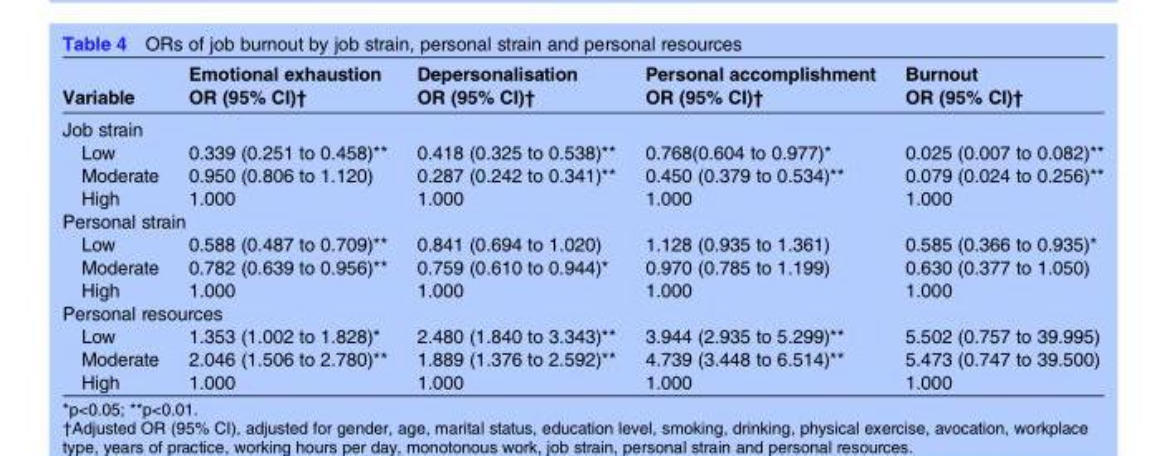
<table><thead><tr><td>Variable</td><td>Emotional exhaustion OR (95% CI)†</td><td>Depersonalisation OR (95% CI)†</td><td>Personal accomplishment OR (95% CI)†</td><td>Burnout OR (95% CI)†</td></tr></thead><tbody><tr><td colspan="5">Job strain</td></tr><tr><td>Low</td><td>0.339 (0.251 to 0.458)**</td><td>0.418 (0.325 to 0.538)**</td><td>0.768(0.604 to 0.977)*</td><td>0.025 (0.007 to 0.082)**</td></tr><tr><td>Moderate</td><td>0.950 (0.806 to 1.120)</td><td>0.287 (0.242 to 0.341)**</td><td>0.450 (0.379 to 0.534)**</td><td>0.079 (0.024 to 0.256)**</td></tr><tr><td>High</td><td>1.000</td><td>1.000</td><td>1.000</td><td>1.000</td></tr><tr><td colspan="5">Personal strain</td></tr><tr><td>Low</td><td>0.588 (0.487 to 0.709)**</td><td>0.841 (0.694 to 1.020)</td><td>1.128 (0.935 to 1.361)</td><td>0.585 (0.366 to 0.935)*</td></tr><tr><td>Moderate</td><td>0.782 (0.639 to 0.956)**</td><td>0.759 (0.610 to 0.944)*</td><td>0.970 (0.785 to 1.199)</td><td>0.630 (0.377 to 1.050)</td></tr><tr><td>High</td><td>1.000</td><td>1.000</td><td>1.000</td><td>1.000</td></tr><tr><td colspan="5">Personal resources</td></tr><tr><td>Low</td><td>1.353 (1.002 to 1.828)*</td><td>2.480 (1.840 to 3.343)**</td><td>3.944 (2.935 to 5.299)**</td><td>5.502 (0.757 to 39.995)</td></tr><tr><td>Moderate</td><td>2.046 (1.506 to 2.780)**</td><td>1.889 (1.376 to 2.592)**</td><td>4.739 (3.448 to 6.514)**</td><td>5.473 (0.747 to 39.500)</td></tr><tr><td>High</td><td>1.000</td><td>1.000</td><td>1.000</td><td>1.000</td></tr></tbody></table>